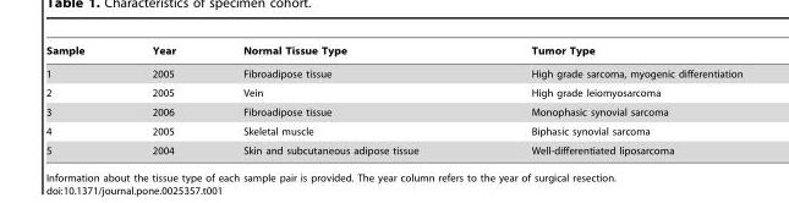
<table><thead><tr><td>Sample</td><td>Year</td><td>Normal Tissue Type</td><td>Tumor Type</td></tr></thead><tbody><tr><td>1</td><td>2005</td><td>Fibroadipose tissue</td><td>High grade sarcoma, myogenic differentiation</td></tr><tr><td>2</td><td>2005</td><td>Vein</td><td>High grade leiomyosarcoma</td></tr><tr><td>3</td><td>2006</td><td>Fibroadipose tissue</td><td>Monophasic synovial sarcoma</td></tr><tr><td>4</td><td>2005</td><td>Skeletal muscle</td><td>Biphasic synovial sarcoma</td></tr><tr><td>5</td><td>2004</td><td>Skin and subcutaneous adipose tissue</td><td>Well-differentiated liposarcoma</td></tr></tbody></table>